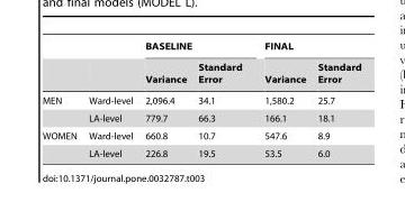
<table><thead><tr><td rowspan="2"></td><td rowspan="2"></td><td colspan="2">BASELINE</td><td colspan="2">FINAL</td></tr><tr><td>Variance</td><td>Standard Error</td><td>Variance</td><td>Standard Error</td></tr></thead><tbody><tr><td rowspan="2">MEN</td><td>Ward-level</td><td>2,096.4</td><td>34.1</td><td>1,580.2</td><td>25.7</td></tr><tr><td>LA-level</td><td>779.7</td><td>66.3</td><td>166.1</td><td>18.1</td></tr><tr><td rowspan="2">WOMEN</td><td>Ward-level</td><td>660.8</td><td>10.7</td><td>547.6</td><td>8.9</td></tr><tr><td>LA-level</td><td>226.8</td><td>19.5</td><td>53.5</td><td>6.0</td></tr></tbody></table>